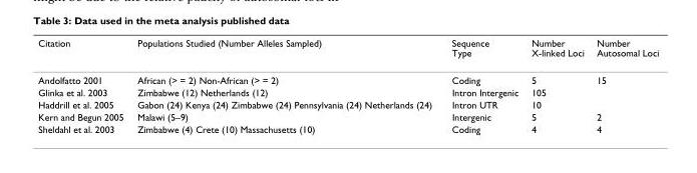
<table><thead><tr><td>Citation</td><td>Populations Studied (Number Alleles Sampled)</td><td>Sequence Type</td><td>Number X-linked Loci</td><td>Number Autosomal Loci</td></tr></thead><tbody><tr><td>Andolfatto 2001</td><td>African (&gt; = 2) Non-African (&gt; = 2)</td><td>Coding</td><td>5</td><td>15</td></tr><tr><td>Glinka et al. 2003</td><td>Zimbabwe (12) Netherlands (12)</td><td>Intron Intergenic</td><td>105</td><td></td></tr><tr><td>Haddrill et al. 2005</td><td>Gabon (24) Kenya (24) Zimbabwe (24) Pennsylvania (24) Netherlands (24)</td><td>Intron UTR</td><td>10</td><td></td></tr><tr><td>Kern and Begun 2005</td><td>Malawi (5–9)</td><td>Intergenic</td><td>5</td><td>2</td></tr><tr><td>Sheldahl et al. 2003</td><td>Zimbabwe (4) Crete (10) Massachusetts (10)</td><td>Coding</td><td>4</td><td>4</td></tr></tbody></table>